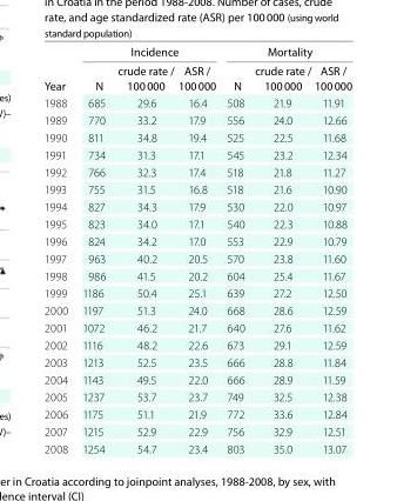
<table><thead><tr><td rowspan="2">Year</td><td colspan="3">Incidence</td><td colspan="3">Mortality</td></tr><tr><td>N</td><td>crude rate / 100 000</td><td>AsR / 100 000</td><td>N</td><td>crude rate / 100 000</td><td>AsR / 100 000</td></tr></thead><tbody><tr><td>1988</td><td>685</td><td>29.6</td><td>16.4</td><td>508</td><td>21.9</td><td>11.91</td></tr><tr><td>1989</td><td>770</td><td>33.2</td><td>17.9</td><td>556</td><td>24.0</td><td>12.66</td></tr><tr><td>1990</td><td>811</td><td>34.8</td><td>19.4</td><td>525</td><td>22.5</td><td>11.68</td></tr><tr><td>1991</td><td>734</td><td>31.3</td><td>17.1</td><td>545</td><td>23.2</td><td>12.34</td></tr><tr><td>1992</td><td>766</td><td>32.3</td><td>17.4</td><td>518</td><td>21.8</td><td>11.27</td></tr><tr><td>1993</td><td>755</td><td>31.5</td><td>16.8</td><td>518</td><td>21.6</td><td>10.90</td></tr><tr><td>1994</td><td>827</td><td>34.3</td><td>17.9</td><td>530</td><td>22.0</td><td>10.97</td></tr><tr><td>1995</td><td>823</td><td>34.0</td><td>17.1</td><td>540</td><td>22.3</td><td>10.88</td></tr><tr><td>1996</td><td>824</td><td>34.2</td><td>17.0</td><td>553</td><td>22.9</td><td>10.79</td></tr><tr><td>1997</td><td>963</td><td>40.2</td><td>20.5</td><td>570</td><td>23.8</td><td>11.60</td></tr><tr><td>1998</td><td>986</td><td>41.5</td><td>20.2</td><td>604</td><td>25.4</td><td>11.67</td></tr><tr><td>1999</td><td>1186</td><td>50.4</td><td>25.1</td><td>639</td><td>27.2</td><td>12.50</td></tr><tr><td>2000</td><td>1197</td><td>51.3</td><td>24.0</td><td>668</td><td>28.6</td><td>12.59</td></tr><tr><td>2001</td><td>1072</td><td>46.2</td><td>21.7</td><td>640</td><td>27.6</td><td>11.62</td></tr><tr><td>2002</td><td>1116</td><td>48.2</td><td>22.6</td><td>673</td><td>29.1</td><td>12.59</td></tr><tr><td>2003</td><td>1213</td><td>52.5</td><td>23.5</td><td>666</td><td>28.8</td><td>11.84</td></tr><tr><td>2004</td><td>1143</td><td>49.5</td><td>22.0</td><td>666</td><td>28.9</td><td>11.59</td></tr><tr><td>2005</td><td>1237</td><td>53.7</td><td>23.7</td><td>749</td><td>32.5</td><td>12.38</td></tr><tr><td>2006</td><td>1175</td><td>51.1</td><td>21.9</td><td>772</td><td>33.6</td><td>12.84</td></tr><tr><td>2007</td><td>1215</td><td>52.9</td><td>22.9</td><td>756</td><td>32.9</td><td>12.51</td></tr><tr><td>2008</td><td>1254</td><td>54.7</td><td>23.4</td><td>803</td><td>35.0</td><td>13.07</td></tr></tbody></table>